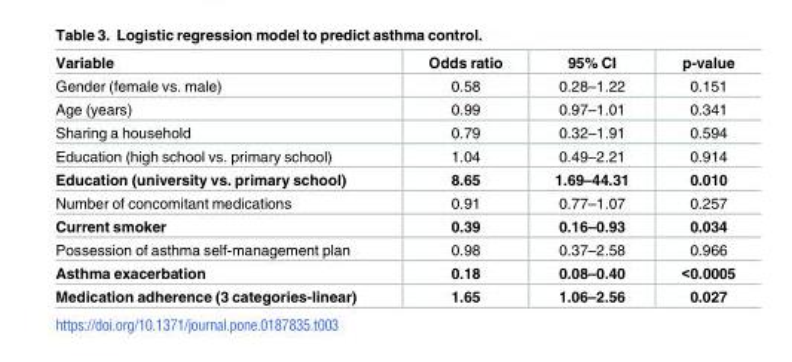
<table><thead><tr><td>Variable</td><td>Odds ratio</td><td>95% CI</td><td>p-value</td></tr></thead><tbody><tr><td>Gender (female vs. male)</td><td>0.58</td><td>0.28–1.22</td><td>0.151</td></tr><tr><td>Age (years)</td><td>0.99</td><td>0.97–1.01</td><td>0.341</td></tr><tr><td>Sharing a household</td><td>0.79</td><td>0.32–1.91</td><td>0.594</td></tr><tr><td>Education (high school vs. primary school)</td><td>1.04</td><td>0.49–2.21</td><td>0.914</td></tr><tr><td>Education (university vs. primary school)</td><td>8.65</td><td>1.69–44.31</td><td>0.010</td></tr><tr><td>Number of concomitant medications</td><td>0.91</td><td>0.77–1.07</td><td>0.257</td></tr><tr><td>Current smoker</td><td>0.39</td><td>0.16–0.93</td><td>0.034</td></tr><tr><td>Possession of asthma self-management plan</td><td>0.98</td><td>0.37–2.58</td><td>0.966</td></tr><tr><td>Asthma exacerbation</td><td>0.18</td><td>0.08–0.40</td><td>&lt;0.0005</td></tr><tr><td>Medication adherence (3 categories-linear)</td><td>1.65</td><td>1.06–2.56</td><td>0.027</td></tr></tbody></table>